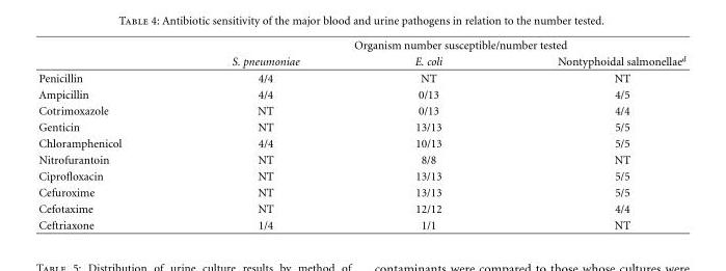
<table><thead><tr><td rowspan="2"></td><td colspan="3">Organism number susceptible/number tested</td></tr><tr><td>S. pneumoniae</td><td>E. coli</td><td>Nontyphoidal salmonellae<sup>d</sup></td></tr></thead><tbody><tr><td>Penicillin</td><td>4/4</td><td>NT</td><td>NT</td></tr><tr><td>Ampicillin</td><td>4/4</td><td>0/13</td><td>4/5</td></tr><tr><td>Cotrimoxazole</td><td>NT</td><td>0/13</td><td>4/4</td></tr><tr><td>Genticin</td><td>NT</td><td>13/13</td><td>5/5</td></tr><tr><td>Chloramphenicol</td><td>4/4</td><td>10/13</td><td>5/5</td></tr><tr><td>Nitrofurantoin</td><td>NT</td><td>8/8</td><td>NT</td></tr><tr><td>Ciprofloxacin</td><td>NT</td><td>13/13</td><td>5/5</td></tr><tr><td>Cefuroxime</td><td>NT</td><td>13/13</td><td>5/5</td></tr><tr><td>Cefotaxime</td><td>NT</td><td>12/12</td><td>4/4</td></tr><tr><td>Ceftriaxone</td><td>1/4</td><td>1/1</td><td>NT</td></tr></tbody></table>